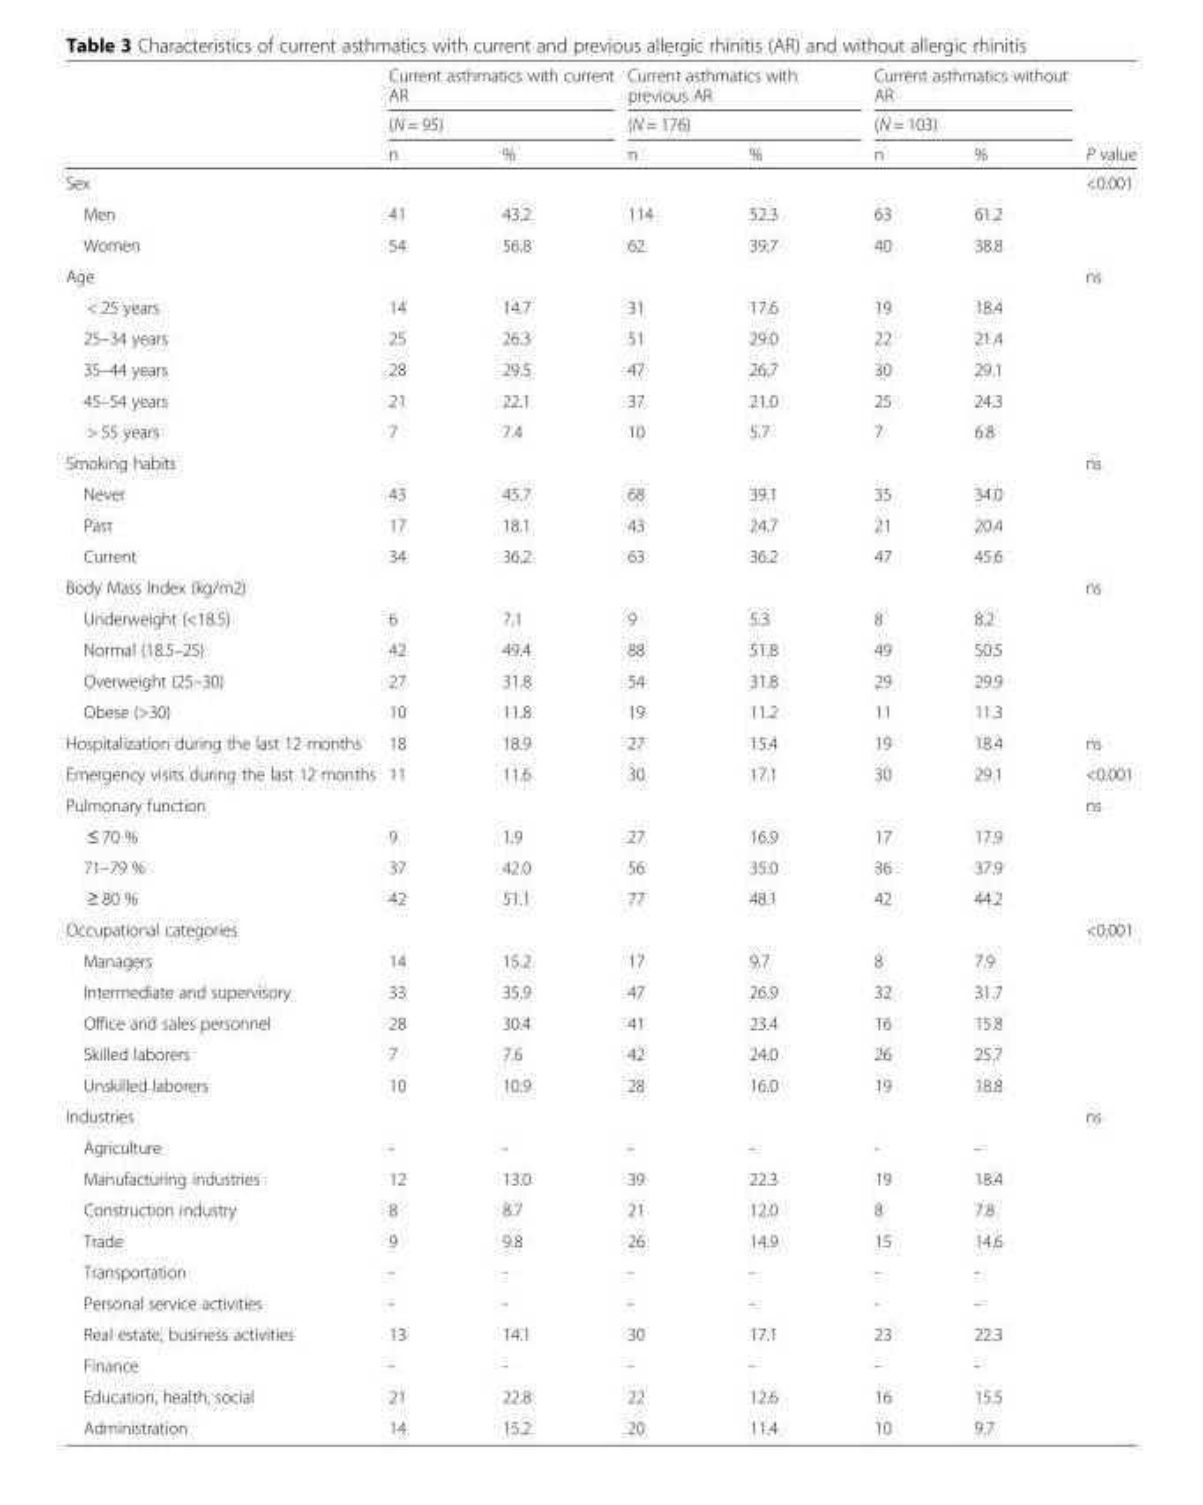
<table><thead><tr><td rowspan="3"></td><td rowspan="2" colspan="2">Current asthmatics with current AR (N = 95)</td><td rowspan="2" colspan="2">Current asthmatics with previous AR (N = 176)</td><td rowspan="2" colspan="2">Current asthmatics without AR (N = 103)</td><td rowspan="3">P value</td></tr><tr></tr><tr><td>n</td><td>%</td><td>n</td><td>%</td><td>n</td><td>%</td></tr></thead><tbody><tr><td>Sex</td><td></td><td></td><td></td><td></td><td></td><td></td><td>&lt;0.001</td></tr><tr><td>Men</td><td>41</td><td>43.2</td><td>114</td><td>52.3</td><td>63</td><td>61.2</td><td></td></tr><tr><td>Women</td><td>54</td><td>56.8</td><td>62</td><td>39.7</td><td>40</td><td>38.8</td><td></td></tr><tr><td>Age</td><td></td><td></td><td></td><td></td><td></td><td></td><td>ns</td></tr><tr><td>&lt; 25 years</td><td>14</td><td>14.7</td><td>31</td><td>17.6</td><td>19</td><td>18.4</td><td></td></tr><tr><td>25–34 years</td><td>25</td><td>26.3</td><td>51</td><td>29.0</td><td>22</td><td>21.4</td><td></td></tr><tr><td>35–44 years</td><td>28</td><td>29.5</td><td>47</td><td>26.7</td><td>30</td><td>29.1</td><td></td></tr><tr><td>45–54 years</td><td>21</td><td>22.1</td><td>37</td><td>21.0</td><td>25</td><td>24.3</td><td></td></tr><tr><td>&gt; 55 years</td><td>7</td><td>7.4</td><td>10</td><td>5.7</td><td>7</td><td>6.8</td><td></td></tr><tr><td>Smoking habits</td><td></td><td></td><td></td><td></td><td></td><td></td><td>ns</td></tr><tr><td>Never</td><td>43</td><td>45.7</td><td>68</td><td>39.1</td><td>35</td><td>34.0</td><td></td></tr><tr><td>Past</td><td>17</td><td>18.1</td><td>43</td><td>24.7</td><td>21</td><td>20.4</td><td></td></tr><tr><td>Current</td><td>34</td><td>36.2</td><td>63</td><td>36.2</td><td>47</td><td>45.6</td><td></td></tr><tr><td>Body Mass Index (kg/m2)</td><td></td><td></td><td></td><td></td><td></td><td></td><td>ns</td></tr><tr><td>Underweight (&lt;18.5)</td><td>6</td><td>7.1</td><td>9</td><td>5.3</td><td>8</td><td>8.2</td><td></td></tr><tr><td>Normal (18.5–25)</td><td>42</td><td>49.4</td><td>88</td><td>51.8</td><td>49</td><td>50.5</td><td></td></tr><tr><td>Overweight (25–30)</td><td>27</td><td>31.8</td><td>54</td><td>31.8</td><td>29</td><td>29.9</td><td></td></tr><tr><td>Obese (&gt;30)</td><td>10</td><td>11.8</td><td>19</td><td>11.2</td><td>11</td><td>11.3</td><td></td></tr><tr><td>Hospitalization during the last 12 months</td><td>18</td><td>18.9</td><td>27</td><td>15.4</td><td>19</td><td>18.4</td><td>ns</td></tr><tr><td>Emergency visits during the last 12 months</td><td>11</td><td>11.6</td><td>30</td><td>17.1</td><td>30</td><td>29.1</td><td>&lt;0.001</td></tr><tr><td>Pulmonary function</td><td></td><td></td><td></td><td></td><td></td><td></td><td>ns</td></tr><tr><td>≤ 70 %</td><td>9</td><td>1.9</td><td>27</td><td>16.9</td><td>17</td><td>17.9</td><td></td></tr><tr><td>71–79 %</td><td>37</td><td>42.0</td><td>56</td><td>35.0</td><td>36</td><td>37.9</td><td></td></tr><tr><td>≥ 80 %</td><td>42</td><td>51.1</td><td>77</td><td>48.1</td><td>42</td><td>44.2</td><td></td></tr><tr><td>Occupational categories</td><td></td><td></td><td></td><td></td><td></td><td></td><td>&lt;0.001</td></tr><tr><td>Managers</td><td>14</td><td>15.2</td><td>17</td><td>9.7</td><td>8</td><td>7.9</td><td></td></tr><tr><td>Intermediate and supervisory</td><td>33</td><td>35.9</td><td>47</td><td>26.9</td><td>32</td><td>31.7</td><td></td></tr><tr><td>Office and sales personnel</td><td>28</td><td>30.4</td><td>41</td><td>23.4</td><td>16</td><td>15.8</td><td></td></tr><tr><td>Skilled laborers</td><td>7</td><td>7.6</td><td>42</td><td>24.0</td><td>26</td><td>25.7</td><td></td></tr><tr><td>Unskilled laborers</td><td>10</td><td>10.9</td><td>28</td><td>16.0</td><td>19</td><td>18.8</td><td></td></tr><tr><td>Industries</td><td></td><td></td><td></td><td></td><td></td><td></td><td>ns</td></tr><tr><td>Agriculture</td><td>-</td><td>-</td><td>-</td><td>-</td><td>-</td><td>-</td><td></td></tr><tr><td>Manufacturing industries</td><td>12</td><td>13.0</td><td>39</td><td>22.3</td><td>19</td><td>18.4</td><td></td></tr><tr><td>Construction industry</td><td>8</td><td>8.7</td><td>21</td><td>12.0</td><td>8</td><td>7.8</td><td></td></tr><tr><td>Trade</td><td>9</td><td>9.8</td><td>26</td><td>14.9</td><td>15</td><td>14.6</td><td></td></tr><tr><td>Transportation</td><td>-</td><td>-</td><td>-</td><td>-</td><td>-</td><td>-</td><td></td></tr><tr><td>Personal service activities</td><td>-</td><td>-</td><td>-</td><td>-</td><td>-</td><td>-</td><td></td></tr><tr><td>Real estate, business activities</td><td>13</td><td>14.1</td><td>30</td><td>17.1</td><td>23</td><td>22.3</td><td></td></tr><tr><td>Finance</td><td>-</td><td>-</td><td>-</td><td>-</td><td>-</td><td>-</td><td></td></tr><tr><td>Education, health, social</td><td>21</td><td>22.8</td><td>22</td><td>12.6</td><td>16</td><td>15.5</td><td></td></tr><tr><td>Administration</td><td>14</td><td>15.2</td><td>20</td><td>11.4</td><td>10</td><td>9.7</td><td></td></tr></tbody></table>